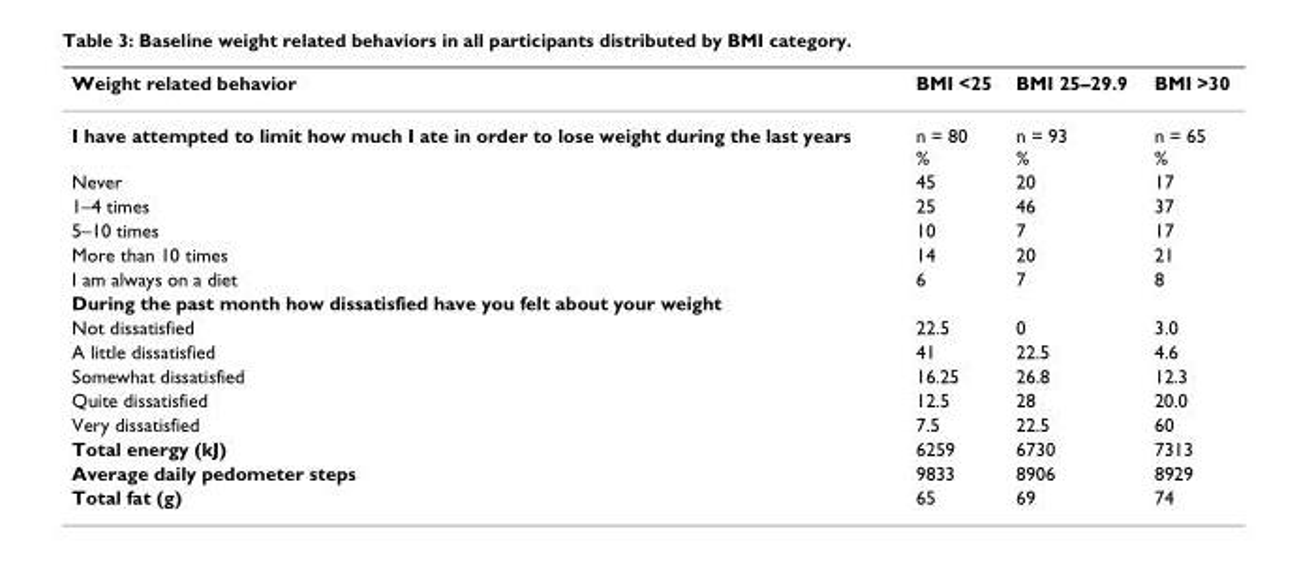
<table><thead><tr><td>Weight related behavior</td><td>BMI &lt;25</td><td>BMI 25–29.9</td><td>BMI &gt;30</td></tr></thead><tbody><tr><td>I have attempted to limit how much I ate in order to lose weight during the last years</td><td>n = 80 %</td><td>n = 93 %</td><td>n = 65 %</td></tr><tr><td>Never</td><td>45</td><td>20</td><td>17</td></tr><tr><td>1–4 times</td><td>25</td><td>46</td><td>37</td></tr><tr><td>5–10 times</td><td>10</td><td>7</td><td>17</td></tr><tr><td>More than 10 times</td><td>14</td><td>20</td><td>21</td></tr><tr><td>I am always on a diet</td><td>6</td><td>7</td><td>8</td></tr><tr><td colspan="4">During the past month how dissatisfied have you felt about your weight</td></tr><tr><td>Not dissatisfied</td><td>22.5</td><td>0</td><td>3.0</td></tr><tr><td>A little dissatisfied</td><td>41</td><td>22.5</td><td>4.6</td></tr><tr><td>Somewhat dissatisfied</td><td>16.25</td><td>26.8</td><td>12.3</td></tr><tr><td>Quite dissatisfied</td><td>12.5</td><td>28</td><td>20.0</td></tr><tr><td>Very dissatisfied</td><td>7.5</td><td>22.5</td><td>60</td></tr><tr><td>Total energy (kJ)</td><td>6259</td><td>6730</td><td>7313</td></tr><tr><td>Average daily pedometer steps</td><td>9833</td><td>8906</td><td>8929</td></tr><tr><td>Total fat (g)</td><td>65</td><td>69</td><td>74</td></tr></tbody></table>